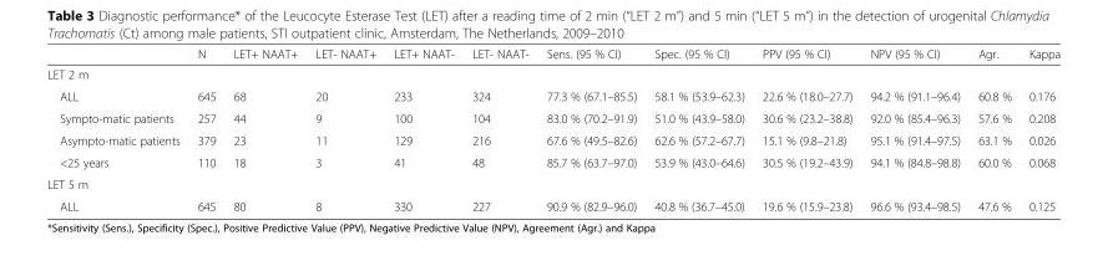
<table><thead><tr><td></td><td>N</td><td>LET+ NAAT+</td><td>LET- NAAT+</td><td>LET+ NAAT-</td><td>LET- NAAT-</td><td>Sens. (95 % CI)</td><td>Spec. (95 % CI)</td><td>PPV (95 % CI)</td><td>NPV (95 % CI)</td><td>Agr.</td><td>Kappa</td></tr></thead><tbody><tr><td colspan="12">LET 2 m</td></tr><tr><td>ALL</td><td>645</td><td>68</td><td>20</td><td>233</td><td>324</td><td>77.3 % (67.1–85.5)</td><td>58.1 % (53.9–62.3)</td><td>22.6 % (18.0–27.7)</td><td>94.2 % (91.1–96.4)</td><td>60.8 %</td><td>0.176</td></tr><tr><td>Sympto-matic patients</td><td>257</td><td>44</td><td>9</td><td>100</td><td>104</td><td>83.0 % (70.2–91.9)</td><td>51.0 % (43.9–58.0)</td><td>30.6 % (23.2–38.8)</td><td>92.0 % (85.4–96.3)</td><td>57.6 %</td><td>0.208</td></tr><tr><td>Asympto-matic patients</td><td>379</td><td>23</td><td>11</td><td>129</td><td>216</td><td>67.6 % (49.5–82.6)</td><td>62.6 % (57.2–67.7)</td><td>15.1 % (9.8–21.8)</td><td>95.1 % (91.4–97.5)</td><td>63.1 %</td><td>0.026</td></tr><tr><td>&lt;25 years</td><td>110</td><td>18</td><td>3</td><td>41</td><td>48</td><td>85.7 % (63.7–97.0)</td><td>53.9 % (43.0–64.6)</td><td>30.5 % (19.2–43.9)</td><td>94.1 % (84.8–98.8)</td><td>60.0 %</td><td>0.068</td></tr><tr><td colspan="12">LET 5 m</td></tr><tr><td>ALL</td><td>645</td><td>80</td><td>8</td><td>330</td><td>227</td><td>90.9 % (82.9–96.0)</td><td>40.8 % (36.7–45.0)</td><td>19.6 % (15.9–23.8)</td><td>96.6 % (93.4–98.5)</td><td>47.6 %</td><td>0.125</td></tr></tbody></table>